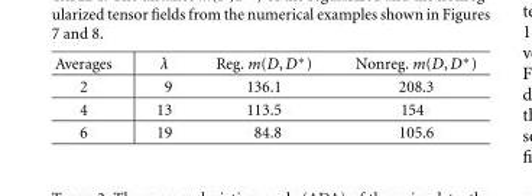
<table><tbody><tr><td>Averages</td><td>λ</td><td>Reg. m(D,D∗)</td><td>Nonreg. m(D,D∗)</td></tr><tr><td>2</td><td>9</td><td>136.1</td><td>208.3</td></tr><tr><td>4</td><td>13</td><td>113.5</td><td>154</td></tr><tr><td>6</td><td>19</td><td>84.8</td><td>105.6</td></tr></tbody></table>